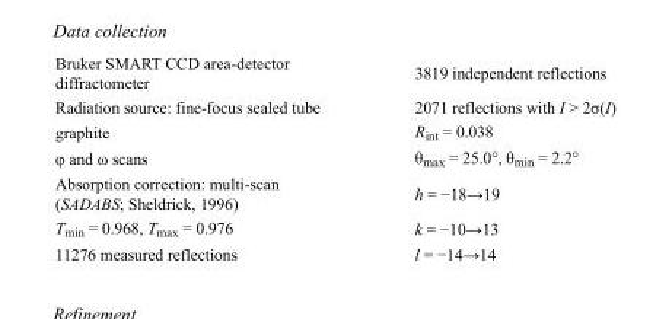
<table><tbody><tr><td>Bruker SMART CCD area-detector diffractometer</td><td>3819 independent reflections</td></tr><tr><td>Radiation source: fine-focus sealed tube</td><td>2071 reflections with I &gt; 2σ(I)</td></tr><tr><td>graphite</td><td>R<sub>int</sub> = 0.038</td></tr><tr><td>φ and ω scans</td><td>θ<sub>max</sub> = 25.0°, θ<sub>min</sub> = 2.2°</td></tr><tr><td>Absorption correction: multi-scan (SADABS; Sheldrick, 1996)</td><td>h = −18→19</td></tr><tr><td>T<sub>min</sub> = 0.968, T<sub>max</sub> = 0.976</td><td>k = −10→13</td></tr><tr><td>11276 measured reflections</td><td>l = −14→14</td></tr></tbody></table>